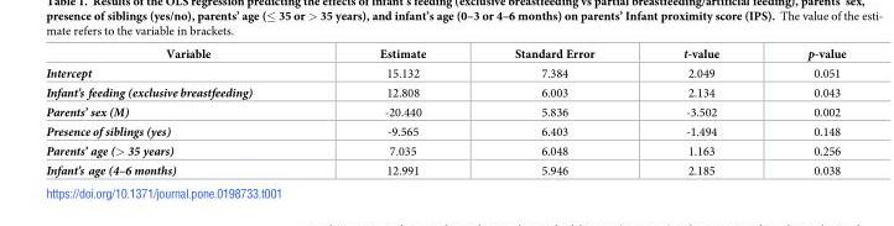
<table><thead><tr><td>Variable</td><td>Estimate</td><td>Standard Error</td><td>t-value</td><td>p-value</td></tr></thead><tbody><tr><td>Intercept</td><td>15.132</td><td>7.384</td><td>2.049</td><td>0.051</td></tr><tr><td>Infant’s feeding (exclusive breastfeeding)</td><td>12.808</td><td>6.003</td><td>2.134</td><td>0.043</td></tr><tr><td>Parents’ sex (M)</td><td>-20.440</td><td>5.836</td><td>-3.502</td><td>0.002</td></tr><tr><td>Presence of siblings (yes)</td><td>-9.565</td><td>6.403</td><td>-1.494</td><td>0.148</td></tr><tr><td>Parents’ age (&gt; 35 years)</td><td>7.035</td><td>6.048</td><td>1.163</td><td>0.256</td></tr><tr><td>Infant’s age (4–6 months)</td><td>12.991</td><td>5.946</td><td>2.185</td><td>0.038</td></tr></tbody></table>